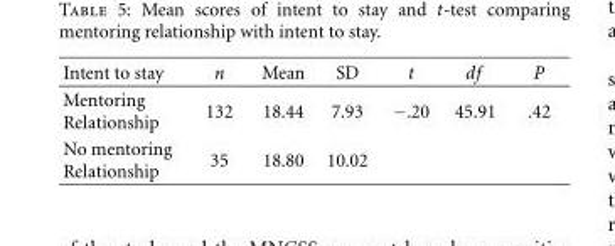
<table><thead><tr><td>Intent to stay</td><td>n</td><td>Mean</td><td>SD</td><td>t</td><td>df</td><td>P</td></tr></thead><tbody><tr><td>Mentoring Relationship</td><td>132</td><td>18.44</td><td>7.93</td><td>−.20</td><td>45.91</td><td>.42</td></tr><tr><td>No mentoring Relationship</td><td>35</td><td>18.80</td><td>10.02</td><td></td><td></td><td></td></tr></tbody></table>